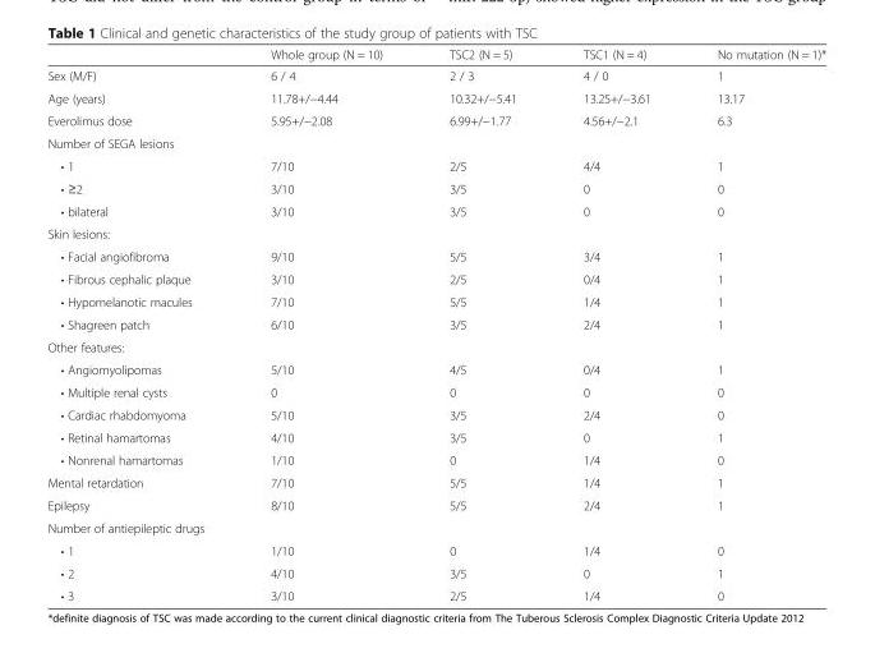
<table><thead><tr><td></td><td>Whole group (N = 10)</td><td>TSC2 (N = 5)</td><td>TSC1 (N = 4)</td><td>No mutation (N = 1)*</td></tr></thead><tbody><tr><td>Sex (M/F)</td><td>6 / 4</td><td>2 / 3</td><td>4 / 0</td><td>1</td></tr><tr><td>Age (years)</td><td>11.78+/−4.44</td><td>10.32+/−5.41</td><td>13.25+/−3.61</td><td>13.17</td></tr><tr><td>Everolimus dose</td><td>5.95+/−2.08</td><td>6.99+/−1.77</td><td>4.56+/−2.1</td><td>6.3</td></tr><tr><td colspan="5">Number of SEGA lesions</td></tr><tr><td>• 1</td><td>7/10</td><td>2/5</td><td>4/4</td><td>1</td></tr><tr><td>• ≥2</td><td>3/10</td><td>3/5</td><td>0</td><td>0</td></tr><tr><td>• bilateral</td><td>3/10</td><td>3/5</td><td>0</td><td>0</td></tr><tr><td colspan="5">Skin lesions:</td></tr><tr><td>• Facial angiofibroma</td><td>9/10</td><td>5/5</td><td>3/4</td><td>1</td></tr><tr><td>• Fibrous cephalic plaque</td><td>3/10</td><td>2/5</td><td>0/4</td><td>1</td></tr><tr><td>• Hypomelanotic macules</td><td>7/10</td><td>5/5</td><td>1/4</td><td>1</td></tr><tr><td>• Shagreen patch</td><td>6/10</td><td>3/5</td><td>2/4</td><td>1</td></tr><tr><td colspan="5">Other features:</td></tr><tr><td>• Angiomyolipomas</td><td>5/10</td><td>4/5</td><td>0/4</td><td>1</td></tr><tr><td>• Multiple renal cysts</td><td>0</td><td>0</td><td>0</td><td>0</td></tr><tr><td>• Cardiac rhabdomyoma</td><td>5/10</td><td>3/5</td><td>2/4</td><td>0</td></tr><tr><td>• Retinal hamartomas</td><td>4/10</td><td>3/5</td><td>0</td><td>1</td></tr><tr><td>• Nonrenal hamartomas</td><td>1/10</td><td>0</td><td>1/4</td><td>0</td></tr><tr><td>Mental retardation</td><td>7/10</td><td>5/5</td><td>1/4</td><td>1</td></tr><tr><td>Epilepsy</td><td>8/10</td><td>5/5</td><td>2/4</td><td>1</td></tr><tr><td colspan="5">Number of antiepileptic drugs</td></tr><tr><td>• 1</td><td>1/10</td><td>0</td><td>1/4</td><td>0</td></tr><tr><td>• 2</td><td>4/10</td><td>3/5</td><td>0</td><td>1</td></tr><tr><td>• 3</td><td>3/10</td><td>2/5</td><td>1/4</td><td>0</td></tr></tbody></table>